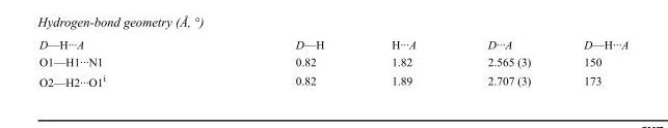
<table><tbody><tr><td>D—H···A</td><td>D—H</td><td>H···A</td><td>D···A</td><td>D—H···A</td></tr><tr><td>O1—H1···N1</td><td>0.82</td><td>1.82</td><td>2.565 (3)</td><td>150</td></tr><tr><td>O2—H2···O1<sup>i</sup></td><td>0.82</td><td>1.89</td><td>2.707 (3)</td><td>173</td></tr></tbody></table>